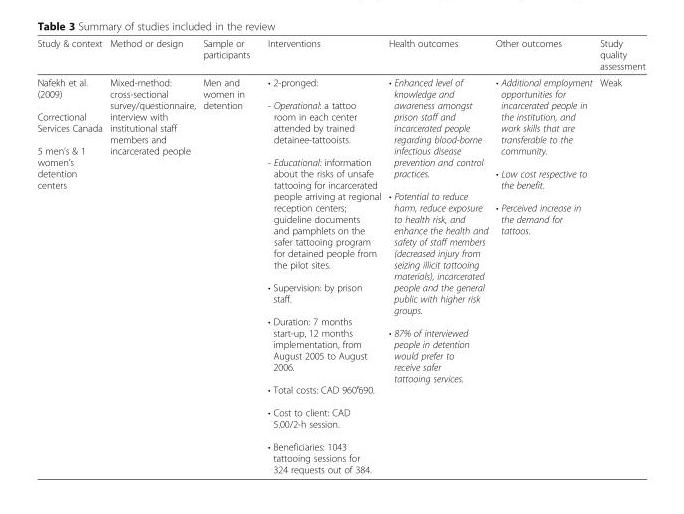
<table><thead><tr><td>Study &amp; context</td><td>Method or design</td><td>Sample or participants</td><td>Interventions</td><td>Health outcomes</td><td>Other outcomes</td><td>Study quality assessment</td></tr></thead><tbody><tr><td>Nafekh et al. (2009) Correctional Services Canada 5 men’s &amp; 1 women’s detention centers</td><td>Mixed-method: cross-sectional survey/questionnaire, interview with institutional staff members and incarcerated people</td><td>Men and women in detention</td><td>• 2-pronged: - Operational: a tattoo room in each center attended by trained detainee-tattooists. - Educational: information about the risks of unsafe tattooing for incarcerated people arriving at regional reception centers; guideline documents and pamphlets on the safer tattooing program for detained people from the pilot sites. • Supervision: by prison staff. • Duration: 7 months start-up, 12 months implementation, from August 2005 to August 2006. • Total costs: CAD 960′690. • Cost to client: CAD 5.00/2-h session. • Beneficiaries: 1043 tattooing sessions for 324 requests out of 384.</td><td>• Enhanced level of knowledge and awareness amongst prison staff and incarcerated people regarding blood-borne infectious disease prevention and control practices. • Potential to reduce harm, reduce exposure to health risk, and enhance the health and safety of staff members (decreased injury from seizing illicit tattooing materials), incarcerated people and the general public with higher risk groups. • 87% of interviewed people in detention would prefer to receive safer tattooing services.</td><td>• Additional employment opportunities for incarcerated people in the institution, and work skills that are transferable to the community. • Low cost respective to the benefit. • Perceived increase in the demand for tattoos.</td><td>Weak</td></tr></tbody></table>